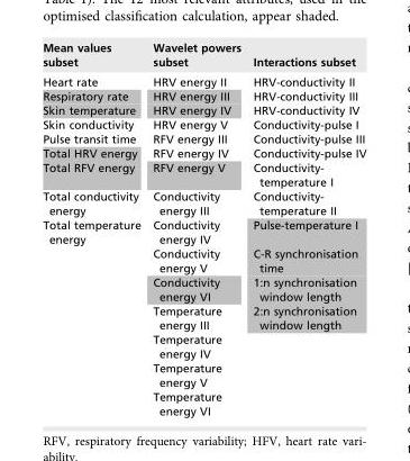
<table><thead><tr><td>Mean values subset</td><td>Wavelet powers subset</td><td>Interactions subset</td></tr></thead><tbody><tr><td>Heart rate</td><td>HRV energy II</td><td>HRV-conductivity II</td></tr><tr><td>Respiratory rate</td><td>HRV energy III</td><td>HRV-conductivity III</td></tr><tr><td>Skin temperature</td><td>HRV energy IV</td><td>HRV-conductivity IV</td></tr><tr><td>Skin conductivity</td><td>HRV energy V</td><td>Conductivity-pulse I</td></tr><tr><td>Pulse transit time</td><td>RFV energy III</td><td>Conductivity-pulse III</td></tr><tr><td>Total HRV energy</td><td>RFV energy IV</td><td>Conductivity-pulse IV</td></tr><tr><td>Total RFV energy</td><td>RFV energy V</td><td>Conductivity- temperature I</td></tr><tr><td>Total conductivity energy</td><td>Conductivity energy III</td><td>Conductivity- temperature II</td></tr><tr><td rowspan="7">Total temperature energy</td><td>Conductivity energy IV</td><td>Pulse-temperature I</td></tr><tr><td>Conductivity energy V</td><td>C-R synchronisation time</td></tr><tr><td>Conductivity energy VI</td><td>1:n synchronisation window length</td></tr><tr><td>Temperature energy III</td><td>2:n synchronisation window length</td></tr><tr><td>Temperature energy IV</td><td></td></tr><tr><td>Temperature energy V</td><td></td></tr><tr><td>Temperature energy VI</td><td></td></tr></tbody></table>